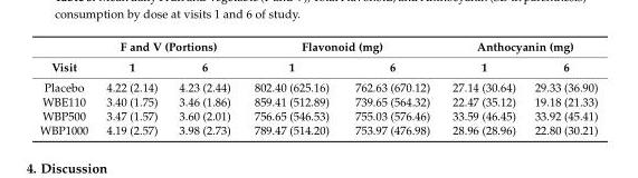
<table><thead><tr><td rowspan="2">Visit</td><td colspan="2">F and V (Portions)</td><td colspan="2">Flavonoid (mg)</td><td colspan="2">Anthocyanin (mg)</td></tr><tr><td>1</td><td>6</td><td>1</td><td>6</td><td>1</td><td>6</td></tr></thead><tbody><tr><td>Placebo</td><td>4.22 (2.14)</td><td>4.23 (2.44)</td><td>802.40 (625.16)</td><td>762.63 (670.12)</td><td>27.14 (30.64)</td><td>29.33 (36.90)</td></tr><tr><td>WBE110</td><td>3.40 (1.75)</td><td>3.46 (1.86)</td><td>859.41 (512.89)</td><td>739.65 (564.32)</td><td>22.47 (35.12)</td><td>19.18 (21.33)</td></tr><tr><td>WBP500</td><td>3.47 (1.57)</td><td>3.60 (2.01)</td><td>756.65 (546.53)</td><td>755.03 (576.46)</td><td>33.59 (46.45)</td><td>33.92 (45.41)</td></tr><tr><td>WBP1000</td><td>4.19 (2.57)</td><td>3.98 (2.73)</td><td>789.47 (514.20)</td><td>753.97 (476.98)</td><td>28.96 (28.96)</td><td>22.80 (30.21)</td></tr></tbody></table>